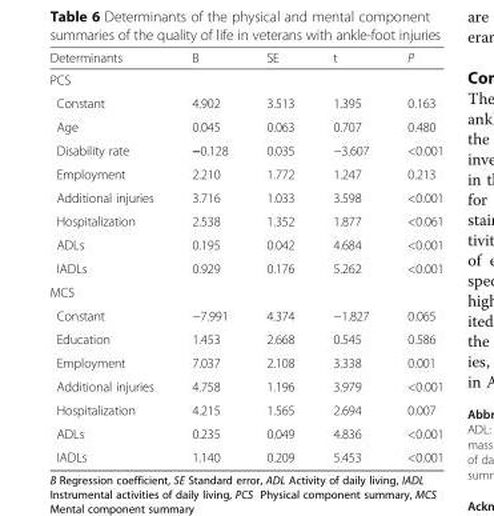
<table><thead><tr><td>Determinants</td><td>B</td><td>SE</td><td>t</td><td>P</td></tr></thead><tbody><tr><td colspan="5">PCS</td></tr><tr><td>Constant</td><td>4.902</td><td>3.513</td><td>1.395</td><td>0.163</td></tr><tr><td>Age</td><td>0.045</td><td>0.063</td><td>0.707</td><td>0.480</td></tr><tr><td>Disability rate</td><td>−0.128</td><td>0.035</td><td>−3.607</td><td>&lt;0.001</td></tr><tr><td>Employment</td><td>2.210</td><td>1.772</td><td>1.247</td><td>0.213</td></tr><tr><td>Additional injuries</td><td>3.716</td><td>1.033</td><td>3.598</td><td>&lt;0.001</td></tr><tr><td>Hospitalization</td><td>2.538</td><td>1.352</td><td>1.877</td><td>&lt;0.061</td></tr><tr><td>ADLs</td><td>0.195</td><td>0.042</td><td>4.684</td><td>&lt;0.001</td></tr><tr><td>IADLs</td><td>0.929</td><td>0.176</td><td>5.262</td><td>&lt;0.001</td></tr><tr><td colspan="5">MCS</td></tr><tr><td>Constant</td><td>−7.991</td><td>4.374</td><td>−1.827</td><td>0.065</td></tr><tr><td>Education</td><td>1.453</td><td>2.668</td><td>0.545</td><td>0.586</td></tr><tr><td>Employment</td><td>7.037</td><td>2.108</td><td>3.338</td><td>0.001</td></tr><tr><td>Additional injuries</td><td>4.758</td><td>1.196</td><td>3.979</td><td>&lt;0.001</td></tr><tr><td>Hospitalization</td><td>4.215</td><td>1.565</td><td>2.694</td><td>0.007</td></tr><tr><td>ADLs</td><td>0.235</td><td>0.049</td><td>4.836</td><td>&lt;0.001</td></tr><tr><td>IADLs</td><td>1.140</td><td>0.209</td><td>5.453</td><td>&lt;0.001</td></tr></tbody></table>